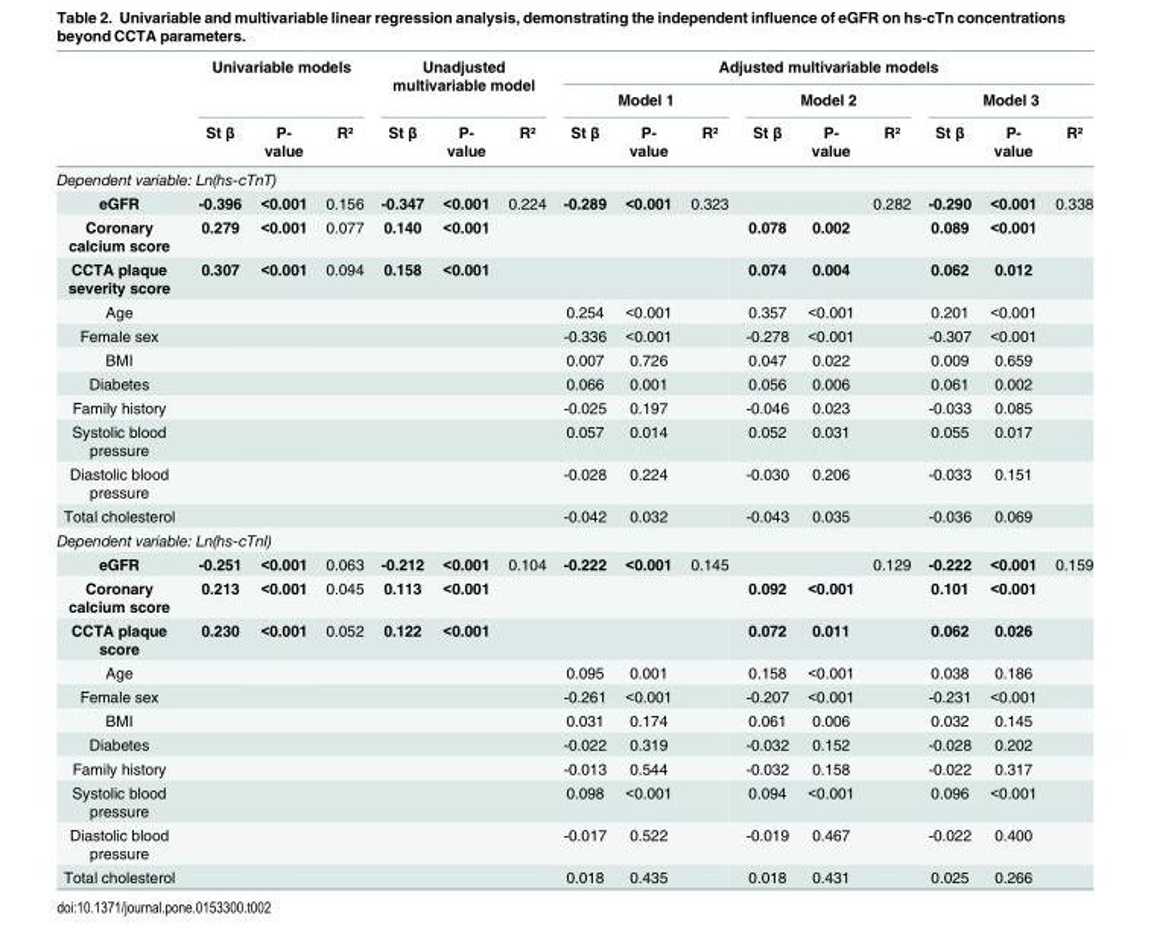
<table><thead><tr><td rowspan="3"></td><td rowspan="2" colspan="3">Univariable models</td><td rowspan="2" colspan="3">Unadjusted multivariable model</td><td colspan="9">Adjusted multivariable models</td></tr><tr><td colspan="3">Model 1</td><td colspan="3">Model 2</td><td colspan="3">Model 3</td></tr><tr><td>St β</td><td>P- value</td><td>R²</td><td>St β</td><td>P- value</td><td>R²</td><td>St β</td><td>P- value</td><td>R²</td><td>St β</td><td>P- value</td><td>R²</td><td>St β</td><td>P- value</td><td>R²</td></tr></thead><tbody><tr><td colspan="16">Dependent variable: Ln(hs-cTnT)</td></tr><tr><td>eGFR</td><td>-0.396</td><td>&lt;0.001</td><td>0.156</td><td>-0.347</td><td>&lt;0.001</td><td>0.224</td><td>-0.289</td><td>&lt;0.001</td><td>0.323</td><td></td><td></td><td>0.282</td><td>-0.290</td><td>&lt;0.001</td><td>0.338</td></tr><tr><td>Coronary calcium score</td><td>0.279</td><td>&lt;0.001</td><td>0.077</td><td>0.140</td><td>&lt;0.001</td><td></td><td></td><td></td><td></td><td>0.078</td><td>0.002</td><td></td><td>0.089</td><td>&lt;0.001</td><td></td></tr><tr><td>CCTA plaque severity score</td><td>0.307</td><td>&lt;0.001</td><td>0.094</td><td>0.158</td><td>&lt;0.001</td><td></td><td></td><td></td><td></td><td>0.074</td><td>0.004</td><td></td><td>0.062</td><td>0.012</td><td></td></tr><tr><td>Age</td><td></td><td></td><td></td><td></td><td></td><td></td><td>0.254</td><td>&lt;0.001</td><td></td><td>0.357</td><td>&lt;0.001</td><td></td><td>0.201</td><td>&lt;0.001</td><td></td></tr><tr><td>Female sex</td><td></td><td></td><td></td><td></td><td></td><td></td><td>-0.336</td><td>&lt;0.001</td><td></td><td>-0.278</td><td>&lt;0.001</td><td></td><td>-0.307</td><td>&lt;0.001</td><td></td></tr><tr><td>BMI</td><td></td><td></td><td></td><td></td><td></td><td></td><td>0.007</td><td>0.726</td><td></td><td>0.047</td><td>0.022</td><td></td><td>0.009</td><td>0.659</td><td></td></tr><tr><td>Diabetes</td><td></td><td></td><td></td><td></td><td></td><td></td><td>0.066</td><td>0.001</td><td></td><td>0.056</td><td>0.006</td><td></td><td>0.061</td><td>0.002</td><td></td></tr><tr><td>Family history</td><td></td><td></td><td></td><td></td><td></td><td></td><td>-0.025</td><td>0.197</td><td></td><td>-0.046</td><td>0.023</td><td></td><td>-0.033</td><td>0.085</td><td></td></tr><tr><td>Systolic blood pressure</td><td></td><td></td><td></td><td></td><td></td><td></td><td>0.057</td><td>0.014</td><td></td><td>0.052</td><td>0.031</td><td></td><td>0.055</td><td>0.017</td><td></td></tr><tr><td>Diastolic blood pressure</td><td></td><td></td><td></td><td></td><td></td><td></td><td>-0.028</td><td>0.224</td><td></td><td>-0.030</td><td>0.206</td><td></td><td>-0.033</td><td>0.151</td><td></td></tr><tr><td>Total cholesterol</td><td></td><td></td><td></td><td></td><td></td><td></td><td>-0.042</td><td>0.032</td><td></td><td>-0.043</td><td>0.035</td><td></td><td>-0.036</td><td>0.069</td><td></td></tr><tr><td colspan="16">Dependent variable: Ln(hs-cTnI)</td></tr><tr><td>eGFR</td><td>-0.251</td><td>&lt;0.001</td><td>0.063</td><td>-0.212</td><td>&lt;0.001</td><td>0.104</td><td>-0.222</td><td>&lt;0.001</td><td>0.145</td><td></td><td></td><td>0.129</td><td>-0.222</td><td>&lt;0.001</td><td>0.159</td></tr><tr><td>Coronary calcium score</td><td>0.213</td><td>&lt;0.001</td><td>0.045</td><td>0.113</td><td>&lt;0.001</td><td></td><td></td><td></td><td></td><td>0.092</td><td>&lt;0.001</td><td></td><td>0.101</td><td>&lt;0.001</td><td></td></tr><tr><td>CCTA plaque score</td><td>0.230</td><td>&lt;0.001</td><td>0.052</td><td>0.122</td><td>&lt;0.001</td><td></td><td></td><td></td><td></td><td>0.072</td><td>0.011</td><td></td><td>0.062</td><td>0.026</td><td></td></tr><tr><td>Age</td><td></td><td></td><td></td><td></td><td></td><td></td><td>0.095</td><td>0.001</td><td></td><td>0.158</td><td>&lt;0.001</td><td></td><td>0.038</td><td>0.186</td><td></td></tr><tr><td>Female sex</td><td></td><td></td><td></td><td></td><td></td><td></td><td>-0.261</td><td>&lt;0.001</td><td></td><td>-0.207</td><td>&lt;0.001</td><td></td><td>-0.231</td><td>&lt;0.001</td><td></td></tr><tr><td>BMI</td><td></td><td></td><td></td><td></td><td></td><td></td><td>0.031</td><td>0.174</td><td></td><td>0.061</td><td>0.006</td><td></td><td>0.032</td><td>0.145</td><td></td></tr><tr><td>Diabetes</td><td></td><td></td><td></td><td></td><td></td><td></td><td>-0.022</td><td>0.319</td><td></td><td>-0.032</td><td>0.152</td><td></td><td>-0.028</td><td>0.202</td><td></td></tr><tr><td>Family history</td><td></td><td></td><td></td><td></td><td></td><td></td><td>-0.013</td><td>0.544</td><td></td><td>-0.032</td><td>0.158</td><td></td><td>-0.022</td><td>0.317</td><td></td></tr><tr><td>Systolic blood pressure</td><td></td><td></td><td></td><td></td><td></td><td></td><td>0.098</td><td>&lt;0.001</td><td></td><td>0.094</td><td>&lt;0.001</td><td></td><td>0.096</td><td>&lt;0.001</td><td></td></tr><tr><td>Diastolic blood pressure</td><td></td><td></td><td></td><td></td><td></td><td></td><td>-0.017</td><td>0.522</td><td></td><td>-0.019</td><td>0.467</td><td></td><td>-0.022</td><td>0.400</td><td></td></tr><tr><td>Total cholesterol</td><td></td><td></td><td></td><td></td><td></td><td></td><td>0.018</td><td>0.435</td><td></td><td>0.018</td><td>0.431</td><td></td><td>0.025</td><td>0.266</td><td></td></tr></tbody></table>